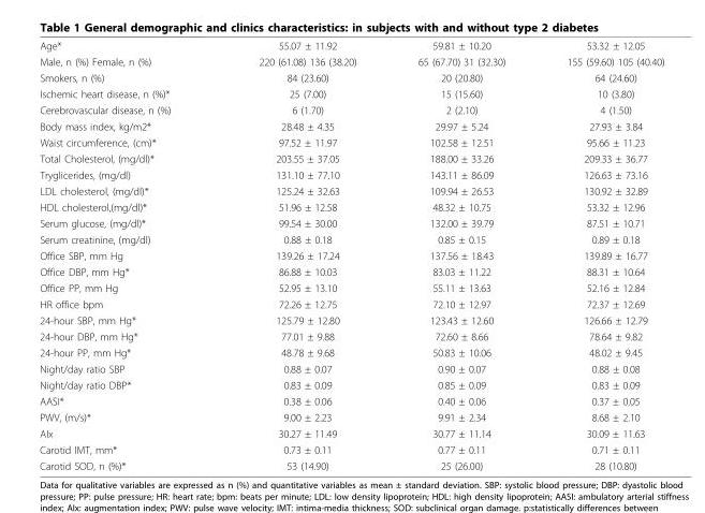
<table><tbody><tr><td>Age*</td><td>55.07 ± 11.92</td><td>59.81 ± 10.20</td><td>53.32 ± 12.05</td></tr><tr><td>Male, n (%) Female, n (%)</td><td>220 (61.08) 136 (38.20)</td><td>65 (67.70) 31 (32.30)</td><td>155 (59.60) 105 (40.40)</td></tr><tr><td>Smokers, n (%)</td><td>84 (23.60)</td><td>20 (20.80)</td><td>64 (24.60)</td></tr><tr><td>Ischemic heart disease, n (%)*</td><td>25 (7.00)</td><td>15 (15.60)</td><td>10 (3.80)</td></tr><tr><td>Cerebrovascular disease, n (%)</td><td>6 (1.70)</td><td>2 (2.10)</td><td>4 (1.50)</td></tr><tr><td>Body mass index, kg/m2*</td><td>28.48 ± 4.35</td><td>29.97 ± 5.24</td><td>27.93 ± 3.84</td></tr><tr><td>Waist circumference, (cm)*</td><td>97.52 ± 11.97</td><td>102.58 ± 12.51</td><td>95.66 ± 11.23</td></tr><tr><td>Total Cholesterol, (mg/dl)*</td><td>203.55 ± 37.05</td><td>188.00 ± 33.26</td><td>209.33 ± 36.77</td></tr><tr><td>Tryglicerides, (mg/dl)</td><td>131.10 ± 77.10</td><td>143.11 ± 86.09</td><td>126.63 ± 73.16</td></tr><tr><td>LDL cholesterol, (mg/dl)*</td><td>125.24 ± 32.63</td><td>109.94 ± 26.53</td><td>130.92 ± 32.89</td></tr><tr><td>HDL cholesterol,(mg/dl)*</td><td>51.96 ± 12.58</td><td>48.32 ± 10.75</td><td>53.32 ± 12.96</td></tr><tr><td>Serum glucose, (mg/dl)*</td><td>99.54 ± 30.00</td><td>132.00 ± 39.79</td><td>87.51 ± 10.71</td></tr><tr><td>Serum creatinine, (mg/dl)</td><td>0.88 ± 0.18</td><td>0.85 ± 0.15</td><td>0.89 ± 0.18</td></tr><tr><td>Office SBP, mm Hg</td><td>139.26 ± 17.24</td><td>137.56 ± 18.43</td><td>139.89 ± 16.77</td></tr><tr><td>Office DBP, mm Hg*</td><td>86.88 ± 10.03</td><td>83.03 ± 11.22</td><td>88.31 ± 10.64</td></tr><tr><td>Office PP, mm Hg</td><td>52.95 ± 13.10</td><td>55.11 ± 13.63</td><td>52.16 ± 12.84</td></tr><tr><td>HR office bpm</td><td>72.26 ± 12.75</td><td>72.10 ± 12.97</td><td>72.37 ± 12.69</td></tr><tr><td>24-hour SBP, mm Hg*</td><td>125.79 ± 12.80</td><td>123.43 ± 12.60</td><td>126.66 ± 12.79</td></tr><tr><td>24-hour DBP, mm Hg*</td><td>77.01 ± 9.88</td><td>72.60 ± 8.66</td><td>78.64 ± 9.82</td></tr><tr><td>24-hour PP, mm Hg*</td><td>48.78 ± 9.68</td><td>50.83 ± 10.06</td><td>48.02 ± 9.45</td></tr><tr><td>Night/day ratio SBP</td><td>0.88 ± 0.07</td><td>0.90 ± 0.07</td><td>0.88 ± 0.08</td></tr><tr><td>Night/day ratio DBP*</td><td>0.83 ± 0.09</td><td>0.85 ± 0.09</td><td>0.83 ± 0.09</td></tr><tr><td>AASI*</td><td>0.38 ± 0.06</td><td>0.40 ± 0.06</td><td>0.37 ± 0.05</td></tr><tr><td>PWV, (m/s)*</td><td>9.00 ± 2.23</td><td>9.91 ± 2.34</td><td>8.68 ± 2.10</td></tr><tr><td>AIx</td><td>30.27 ± 11.49</td><td>30.77 ± 11.14</td><td>30.09 ± 11.63</td></tr><tr><td>Carotid IMT, mm*</td><td>0.73 ± 0.11</td><td>0.77 ± 0.11</td><td>0.71 ± 0.11</td></tr><tr><td>Carotid SOD, n (%)*</td><td>53 (14.90)</td><td>25 (26.00)</td><td>28 (10.80)</td></tr></tbody></table>